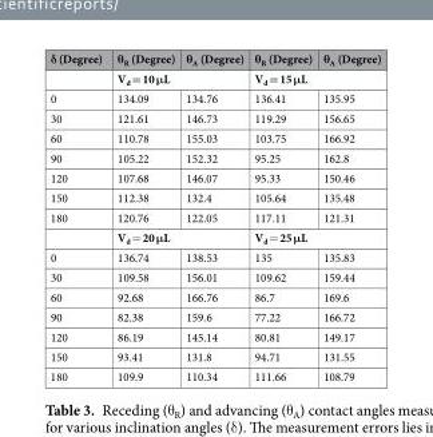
<table><thead><tr><td>δ (Degree)</td><td>θ<sub>R</sub> (Degree)</td><td>θ<sub>A</sub> (Degree)</td><td>θ<sub>R</sub> (Degree)</td><td>θ<sub>A</sub> (Degree)</td></tr></thead><tbody><tr><td></td><td colspan="2">V<sub>d</sub> = 10 μL</td><td colspan="2">V<sub>d</sub> = 15 μL</td></tr><tr><td>0</td><td>134.09</td><td>134.76</td><td>136.41</td><td>135.95</td></tr><tr><td>30</td><td>121.61</td><td>146.73</td><td>119.29</td><td>156.65</td></tr><tr><td>60</td><td>110.78</td><td>155.03</td><td>103.75</td><td>166.92</td></tr><tr><td>90</td><td>105.22</td><td>152.32</td><td>95.25</td><td>162.8</td></tr><tr><td>120</td><td>107.68</td><td>146.07</td><td>95.33</td><td>150.46</td></tr><tr><td>150</td><td>112.38</td><td>132.4</td><td>105.64</td><td>135.48</td></tr><tr><td rowspan="2">180</td><td>120.76</td><td>122.05</td><td>117.11</td><td>121.31</td></tr><tr><td colspan="2">V<sub>d</sub> = 20 μL</td><td colspan="2">V<sub>d</sub> = 25 μL</td></tr><tr><td>0</td><td>136.74</td><td>138.53</td><td>135</td><td>135.83</td></tr><tr><td>30</td><td>109.58</td><td>156.01</td><td>109.62</td><td>159.44</td></tr><tr><td>60</td><td>92.68</td><td>166.76</td><td>86.7</td><td>169.6</td></tr><tr><td>90</td><td>82.38</td><td>159.6</td><td>77.22</td><td>166.72</td></tr><tr><td>120</td><td>86.19</td><td>145.14</td><td>80.81</td><td>149.17</td></tr><tr><td>150</td><td>93.41</td><td>131.8</td><td>94.71</td><td>131.55</td></tr><tr><td>180</td><td>109.9</td><td>110.34</td><td>111.66</td><td>108.79</td></tr></tbody></table>